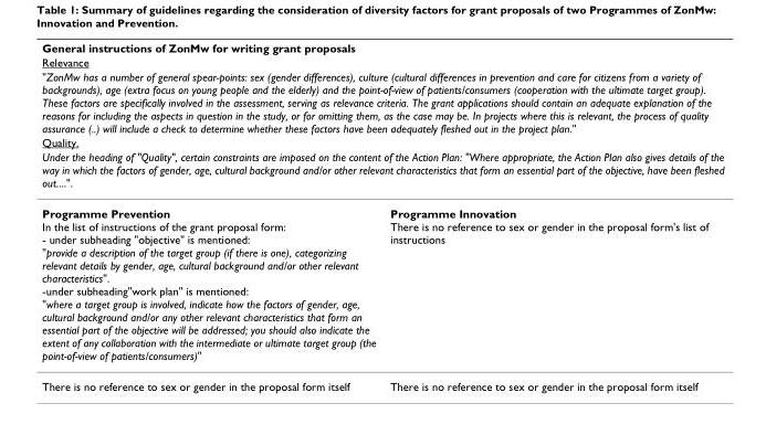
<table><thead><tr><td rowspan="5" colspan="2">General instructions of ZonMw for writing grant proposals Relevance &quot;ZonMw has a number of general spear-points: sex (gender differences), culture (cultural differences in prevention and care for citizens from a variety of backgrounds), age (extra focus on young people and the elderly) and the point-of-view of patients/consumers (cooperation with the ultimate target group). These factors are specifically involved in the assessment, serving as relevance criteria. The grant applications should contain an adequate explanation of the reasons for including the aspects in question in the study, or for omitting them, as the case may be. In projects where this is relevant, the process of quality assurance (..) will include a check to determine whether these factors have been adequately fleshed out in the project plan.&quot; Quality. Under the heading of &quot;Quality&quot;, certain constraints are imposed on the content of the Action Plan: &quot;Where appropriate, the Action Plan also gives details of the way in which the factors of gender, age, cultural background and/or other relevant characteristics that form an essential part of the objective, have been fleshed out....&quot;.</td></tr><tr></tr><tr></tr><tr></tr><tr></tr><tr><td>Programme Prevention In the list of instructions of the grant proposal form: - under subheading &quot;objective&quot; is mentioned: &quot;provide a description of the target group (if there is one), categorizing relevant details by gender, age, cultural background and/or other relevant characteristics&quot;. -under subheading&quot;work plan&quot; is mentioned: &quot;where a target group is involved, indicate how the factors of gender, age, cultural background and/or any other relevant characteristics that form an essential part of the objective will be addressed; you should also indicate the extent of any collaboration with the intermediate or ultimate target group (the point-of-view of patients/consumers)&quot;</td><td>Programme Innovation There is no reference to sex or gender in the proposal form&#x27;s list of instructions</td></tr></thead><tbody><tr><td>There is no reference to sex or gender in the proposal form itself</td><td>There is no reference to sex or gender in the proposal form itself</td></tr></tbody></table>